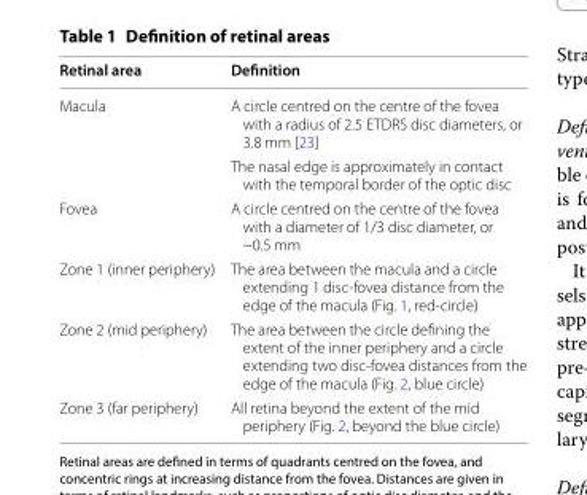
<table><thead><tr><td>Retinal area</td><td>Definition</td></tr></thead><tbody><tr><td rowspan="2">Macula</td><td>A circle centred on the centre of the fovea with a radius of 2.5 ETDRS disc diameters, or 3.8 mm [23]</td></tr><tr><td>The nasal edge is approximately in contact with the temporal border of the optic disc</td></tr><tr><td>Fovea</td><td>A circle centred on the centre of the fovea with a diameter of 1/3 disc diameter, or ~0.5 mm</td></tr><tr><td>Zone 1 (inner periphery)</td><td>The area between the macula and a circle extending 1 disc-fovea distance from the edge of the macula (Fig. 1, red-circle)</td></tr><tr><td>Zone 2 (mid periphery)</td><td>The area between the circle defining the extent of the inner periphery and a circle extending two disc-fovea distances from the edge of the macula (Fig. 2, blue circle)</td></tr><tr><td>Zone 3 (far periphery)</td><td>All retina beyond the extent of the mid periphery (Fig. 2, beyond the blue circle)</td></tr></tbody></table>